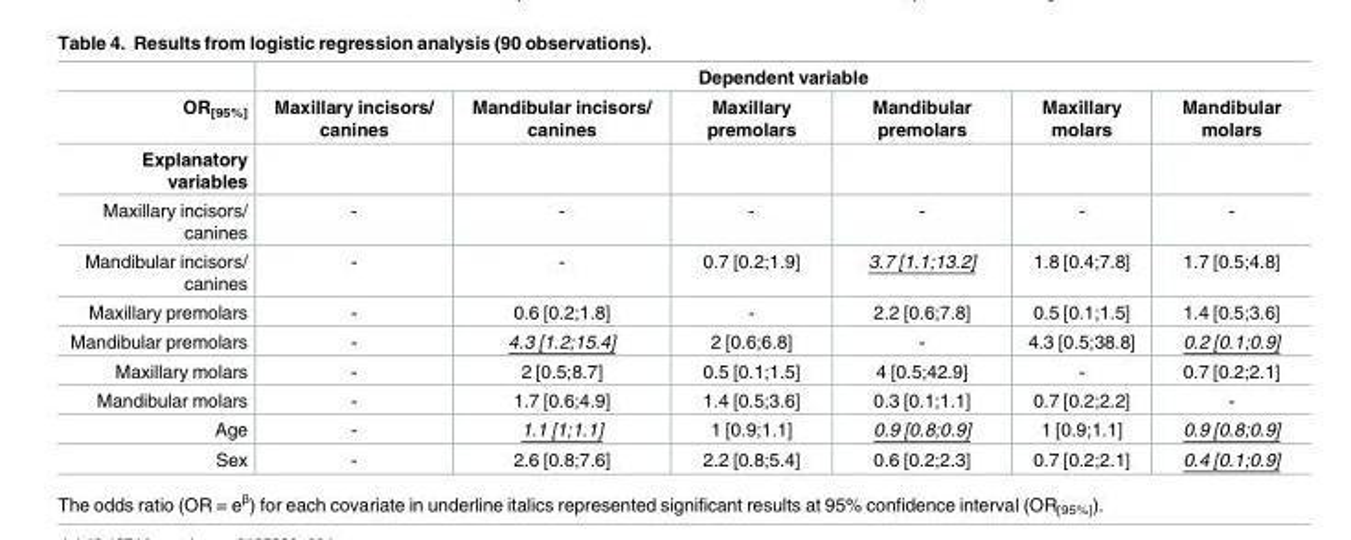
<table><thead><tr><td rowspan="2">OR<sub>[95%]</sub></td><td colspan="6">Dependent variable</td></tr><tr><td>Maxillary incisors/ canines</td><td>Mandibular incisors/ canines</td><td>Maxillary premolars</td><td>Mandibular premolars</td><td>Maxillary molars</td><td>Mandibular molars</td></tr></thead><tbody><tr><td colspan="7">Explanatory variables</td></tr><tr><td>Maxillary incisors/ canines</td><td>-</td><td>-</td><td>-</td><td>-</td><td>-</td><td>-</td></tr><tr><td>Mandibular incisors/ canines</td><td>-</td><td>-</td><td>0.7 [0.2;1.9]</td><td>3.7 [1.1;13.2]</td><td>1.8 [0.4;7.8]</td><td>1.7 [0.5;4.8]</td></tr><tr><td>Maxillary premolars</td><td>-</td><td>0.6 [0.2;1.8]</td><td>-</td><td>2.2 [0.6;7.8]</td><td>0.5 [0.1;1.5]</td><td>1.4 [0.5;3.6]</td></tr><tr><td>Mandibular premolars</td><td>-</td><td>4.3 [1.2;15.4]</td><td>2 [0.6;6.8]</td><td>-</td><td>4.3 [0.5;38.8]</td><td>0.2 [0.1;0.9]</td></tr><tr><td>Maxillary molars</td><td>-</td><td>2 [0.5;8.7]</td><td>0.5 [0.1;1.5]</td><td>4 [0.5;42.9]</td><td>-</td><td>0.7 [0.2;2.1]</td></tr><tr><td>Mandibular molars</td><td>-</td><td>1.7 [0.6;4.9]</td><td>1.4 [0.5;3.6]</td><td>0.3 [0.1;1.1]</td><td>0.7 [0.2;2.2]</td><td>-</td></tr><tr><td>Age</td><td>-</td><td>1.1 [1;1.1]</td><td>1 [0.9;1.1]</td><td>0.9 [0.8;0.9]</td><td>1 [0.9;1.1]</td><td>0.9 [0.8;0.9]</td></tr><tr><td>Sex</td><td>-</td><td>2.6 [0.8;7.6]</td><td>2.2 [0.8;5.4]</td><td>0.6 [0.2;2.3]</td><td>0.7 [0.2;2.1]</td><td>0.4 [0.1;0.9]</td></tr></tbody></table>